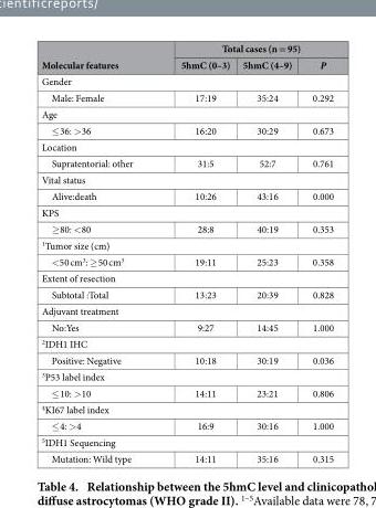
<table><thead><tr><td rowspan="2">Molecular features</td><td colspan="3">Total cases (n = 95)</td></tr><tr><td>5hmC (0–3)</td><td>5hmC (4–9)</td><td>P</td></tr></thead><tbody><tr><td colspan="4">Gender</td></tr><tr><td>Male: Female</td><td>17:19</td><td>35:24</td><td>0.292</td></tr><tr><td colspan="4">Age</td></tr><tr><td>≤ 36: &gt;36</td><td>16:20</td><td>30:29</td><td>0.673</td></tr><tr><td colspan="4">Location</td></tr><tr><td>Supratentorial: other</td><td>31:5</td><td>52:7</td><td>0.761</td></tr><tr><td colspan="4">Vital status</td></tr><tr><td>Alive:death</td><td>10:26</td><td>43:16</td><td>0.000</td></tr><tr><td colspan="4">KPS</td></tr><tr><td>≥ 80: &lt;80</td><td>28:8</td><td>40:19</td><td>0.353</td></tr><tr><td colspan="4"><sup>1</sup>Tumor size (cm)</td></tr><tr><td>&lt;50 cm<sup>3</sup>: ≥ 50 cm<sup>3</sup></td><td>19:11</td><td>25:23</td><td>0.358</td></tr><tr><td colspan="4">Extent of resection</td></tr><tr><td>Subtotal :Total</td><td>13:23</td><td>20:39</td><td>0.828</td></tr><tr><td colspan="4">Adjuvant treatment</td></tr><tr><td>No:Yes</td><td>9:27</td><td>14:45</td><td>1.000</td></tr><tr><td colspan="4"><sup>2</sup>IDH1 IHC</td></tr><tr><td>Positive: Negative</td><td>10:18</td><td>30:19</td><td>0.036</td></tr><tr><td colspan="4"><sup>3</sup>P53 label index</td></tr><tr><td>≤ 10: &gt;10</td><td>14:11</td><td>23:21</td><td>0.806</td></tr><tr><td colspan="4"><sup>4</sup>KI67 label index</td></tr><tr><td>≤ 4: &gt;4</td><td>16:9</td><td>30:16</td><td>1.000</td></tr><tr><td colspan="4"><sup>5</sup>IDH1 Sequencing</td></tr><tr><td>Mutation: Wild type</td><td>14:11</td><td>35:16</td><td>0.315</td></tr></tbody></table>